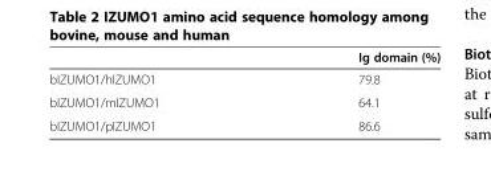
<table><thead><tr><td></td><td>Ig domain (%)</td></tr></thead><tbody><tr><td>bIZUMO1/hIZUMO1</td><td>79.8</td></tr><tr><td>bIZUMO1/mIZUMO1</td><td>64.1</td></tr><tr><td>bIZUMO1/pIZUMO1</td><td>86.6</td></tr></tbody></table>